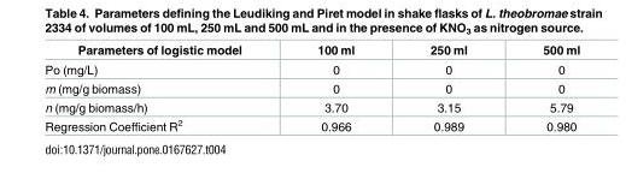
<table><thead><tr><td>Parameters of logistic model</td><td>100 ml</td><td>250 ml</td><td>500 ml</td></tr></thead><tbody><tr><td>Po (mg/L)</td><td>0</td><td>0</td><td>0</td></tr><tr><td>m (mg/g biomass)</td><td>0</td><td>0</td><td>0</td></tr><tr><td>n (mg/g biomass/h)</td><td>3.70</td><td>3.15</td><td>5.79</td></tr><tr><td>Regression Coefficient R<sup>2</sup></td><td>0.966</td><td>0.989</td><td>0.980</td></tr></tbody></table>